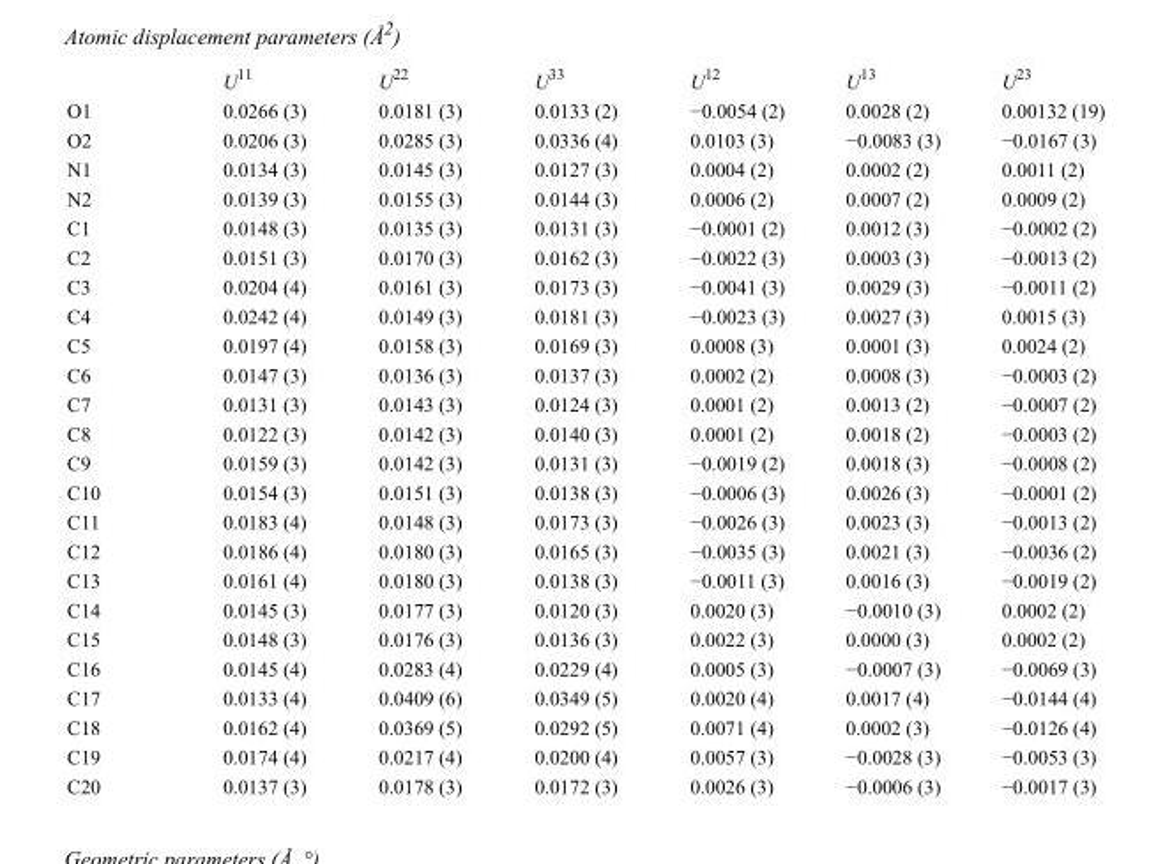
<table><thead><tr><td></td><td>U<sup>11</sup></td><td>U<sup>22</sup></td><td>U<sup>33</sup></td><td>U<sup>12</sup></td><td>U<sup>13</sup></td><td>U<sup>23</sup></td></tr></thead><tbody><tr><td>O1</td><td>0.0266 (3)</td><td>0.0181 (3)</td><td>0.0133 (2)</td><td>−0.0054 (2)</td><td>0.0028 (2)</td><td>0.00132 (19)</td></tr><tr><td>O2</td><td>0.0206 (3)</td><td>0.0285 (3)</td><td>0.0336 (4)</td><td>0.0103 (3)</td><td>−0.0083 (3)</td><td>−0.0167 (3)</td></tr><tr><td>N1</td><td>0.0134 (3)</td><td>0.0145 (3)</td><td>0.0127 (3)</td><td>0.0004 (2)</td><td>0.0002 (2)</td><td>0.0011 (2)</td></tr><tr><td>N2</td><td>0.0139 (3)</td><td>0.0155 (3)</td><td>0.0144 (3)</td><td>0.0006 (2)</td><td>0.0007 (2)</td><td>0.0009 (2)</td></tr><tr><td>C1</td><td>0.0148 (3)</td><td>0.0135 (3)</td><td>0.0131 (3)</td><td>−0.0001 (2)</td><td>0.0012 (3)</td><td>−0.0002 (2)</td></tr><tr><td>C2</td><td>0.0151 (3)</td><td>0.0170 (3)</td><td>0.0162 (3)</td><td>−0.0022 (3)</td><td>0.0003 (3)</td><td>−0.0013 (2)</td></tr><tr><td>C3</td><td>0.0204 (4)</td><td>0.0161 (3)</td><td>0.0173 (3)</td><td>−0.0041 (3)</td><td>0.0029 (3)</td><td>−0.0011 (2)</td></tr><tr><td>C4</td><td>0.0242 (4)</td><td>0.0149 (3)</td><td>0.0181 (3)</td><td>−0.0023 (3)</td><td>0.0027 (3)</td><td>0.0015 (3)</td></tr><tr><td>C5</td><td>0.0197 (4)</td><td>0.0158 (3)</td><td>0.0169 (3)</td><td>0.0008 (3)</td><td>0.0001 (3)</td><td>0.0024 (2)</td></tr><tr><td>C6</td><td>0.0147 (3)</td><td>0.0136 (3)</td><td>0.0137 (3)</td><td>0.0002 (2)</td><td>0.0008 (3)</td><td>−0.0003 (2)</td></tr><tr><td>C7</td><td>0.0131 (3)</td><td>0.0143 (3)</td><td>0.0124 (3)</td><td>0.0001 (2)</td><td>0.0013 (2)</td><td>−0.0007 (2)</td></tr><tr><td>C8</td><td>0.0122 (3)</td><td>0.0142 (3)</td><td>0.0140 (3)</td><td>0.0001 (2)</td><td>0.0018 (2)</td><td>−0.0003 (2)</td></tr><tr><td>C9</td><td>0.0159 (3)</td><td>0.0142 (3)</td><td>0.0131 (3)</td><td>−0.0019 (2)</td><td>0.0018 (3)</td><td>−0.0008 (2)</td></tr><tr><td>C10</td><td>0.0154 (3)</td><td>0.0151 (3)</td><td>0.0138 (3)</td><td>−0.0006 (3)</td><td>0.0026 (3)</td><td>−0.0001 (2)</td></tr><tr><td>C11</td><td>0.0183 (4)</td><td>0.0148 (3)</td><td>0.0173 (3)</td><td>−0.0026 (3)</td><td>0.0023 (3)</td><td>−0.0013 (2)</td></tr><tr><td>C12</td><td>0.0186 (4)</td><td>0.0180 (3)</td><td>0.0165 (3)</td><td>−0.0035 (3)</td><td>0.0021 (3)</td><td>−0.0036 (2)</td></tr><tr><td>C13</td><td>0.0161 (4)</td><td>0.0180 (3)</td><td>0.0138 (3)</td><td>−0.0011 (3)</td><td>0.0016 (3)</td><td>−0.0019 (2)</td></tr><tr><td>C14</td><td>0.0145 (3)</td><td>0.0177 (3)</td><td>0.0120 (3)</td><td>0.0020 (3)</td><td>−0.0010 (3)</td><td>0.0002 (2)</td></tr><tr><td>C15</td><td>0.0148 (3)</td><td>0.0176 (3)</td><td>0.0136 (3)</td><td>0.0022 (3)</td><td>0.0000 (3)</td><td>0.0002 (2)</td></tr><tr><td>C16</td><td>0.0145 (4)</td><td>0.0283 (4)</td><td>0.0229 (4)</td><td>0.0005 (3)</td><td>−0.0007 (3)</td><td>−0.0069 (3)</td></tr><tr><td>C17</td><td>0.0133 (4)</td><td>0.0409 (6)</td><td>0.0349 (5)</td><td>0.0020 (4)</td><td>0.0017 (4)</td><td>−0.0144 (4)</td></tr><tr><td>C18</td><td>0.0162 (4)</td><td>0.0369 (5)</td><td>0.0292 (5)</td><td>0.0071 (4)</td><td>0.0002 (3)</td><td>−0.0126 (4)</td></tr><tr><td>C19</td><td>0.0174 (4)</td><td>0.0217 (4)</td><td>0.0200 (4)</td><td>0.0057 (3)</td><td>−0.0028 (3)</td><td>−0.0053 (3)</td></tr><tr><td>C20</td><td>0.0137 (3)</td><td>0.0178 (3)</td><td>0.0172 (3)</td><td>0.0026 (3)</td><td>−0.0006 (3)</td><td>−0.0017 (3)</td></tr></tbody></table>